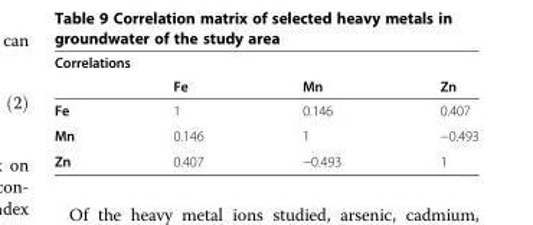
<table><thead><tr><td colspan="4">Correlations</td></tr><tr><td></td><td>Fe</td><td>Mn</td><td>Zn</td></tr></thead><tbody><tr><td>Fe</td><td>1</td><td>0.146</td><td>0.407</td></tr><tr><td>Mn</td><td>0.146</td><td>1</td><td>−0.493</td></tr><tr><td>Zn</td><td>0.407</td><td>−0.493</td><td>1</td></tr></tbody></table>